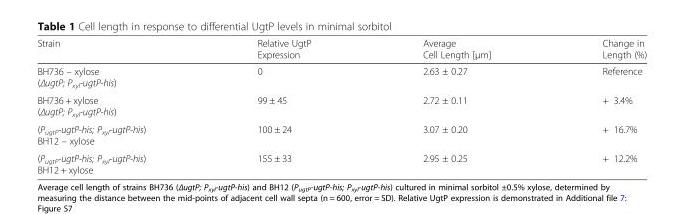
<table><thead><tr><td>Strain</td><td>Relative UgtP Expression</td><td>Average Cell Length [μm]</td><td>Change in Length (%)</td></tr></thead><tbody><tr><td>BH736 – xylose (ΔugtP; Pxyl-ugtP-his)</td><td>0</td><td>2.63 ± 0.27</td><td>Reference</td></tr><tr><td>BH736 + xylose (ΔugtP; Pxyl-ugtP-his)</td><td>99 ± 45</td><td>2.72 ± 0.11</td><td>+ 3.4%</td></tr><tr><td>(P<sub>ugtP</sub>-ugtP-his; P<sub>xyl</sub>-ugtP-his) BH12 – xylose</td><td>100 ± 24</td><td>3.07 ± 0.20</td><td>+ 16.7%</td></tr><tr><td>(P<sub>ugtP</sub>-ugtP-his; P<sub>xyl</sub>-ugtP-his) BH12 + xylose</td><td>155 ± 33</td><td>2.95 ± 0.25</td><td>+ 12.2%</td></tr></tbody></table>